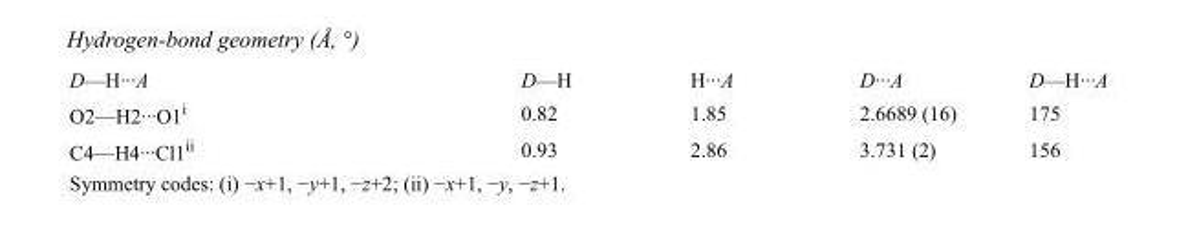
<table><tbody><tr><td>D—H···A</td><td>D—H</td><td>H···A</td><td>D···A</td><td>D—H···A</td></tr><tr><td>O2—H2···O1<sup>i</sup></td><td>0.82</td><td>1.85</td><td>2.6689 (16)</td><td>175</td></tr><tr><td>C4—H4···Cl1<sup>ii</sup></td><td>0.93</td><td>2.86</td><td>3.731 (2)</td><td>156</td></tr></tbody></table>